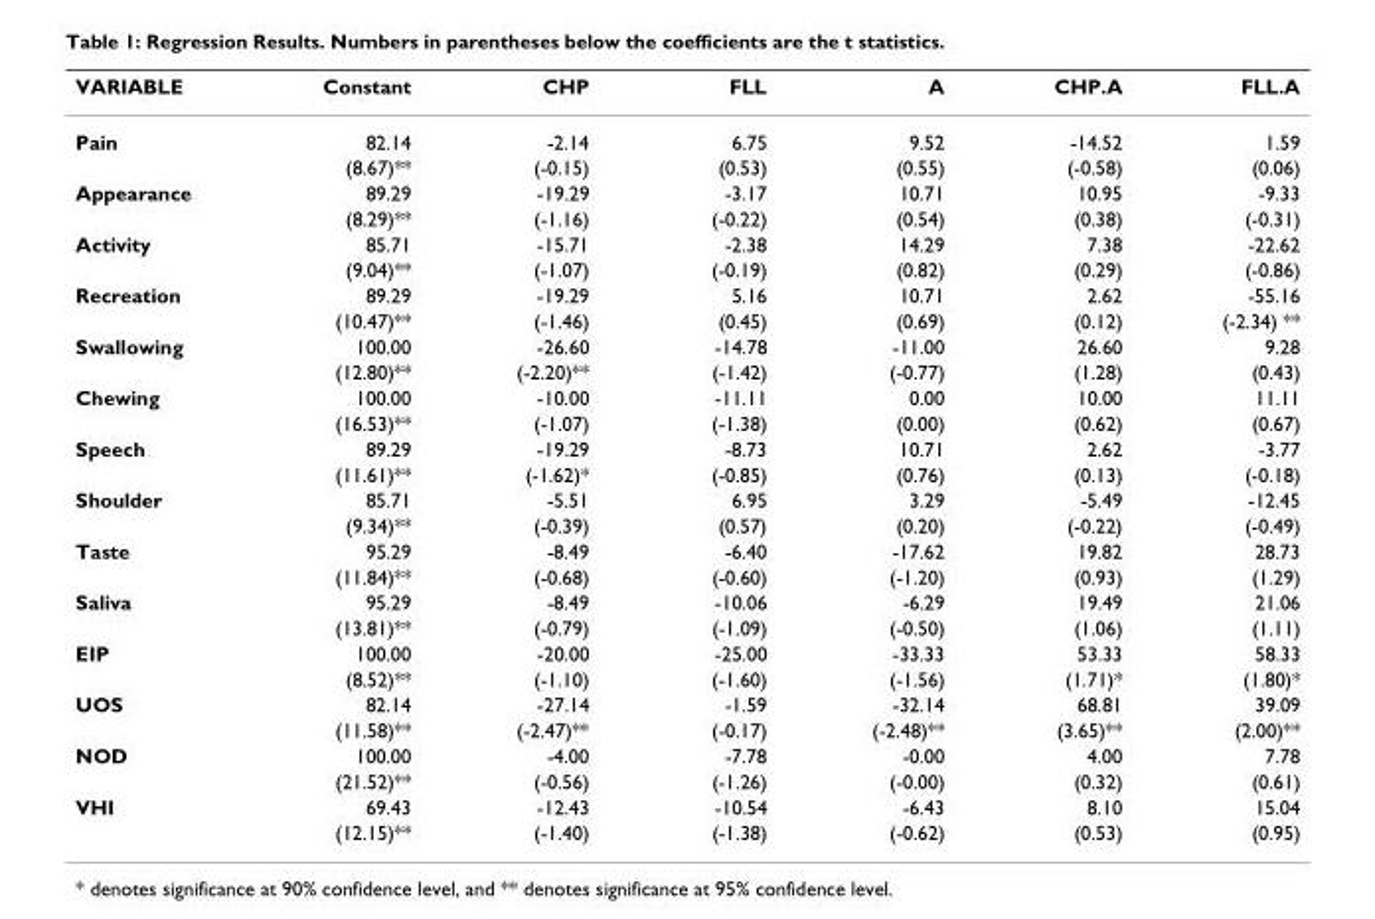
<table><thead><tr><td>VARIABLE</td><td>Constant</td><td>CHP</td><td>FLL</td><td>A</td><td>CHP.A</td><td>FLL.A</td></tr></thead><tbody><tr><td rowspan="2">Pain</td><td>82.14</td><td>-2.14</td><td>6.75</td><td>9.52</td><td>-14.52</td><td>1.59</td></tr><tr><td>(8.67)**</td><td>(-0.15)</td><td>(0.53)</td><td>(0.55)</td><td>(-0.58)</td><td>(0.06)</td></tr><tr><td rowspan="2">Appearance</td><td>89.29</td><td>-19.29</td><td>-3.17</td><td>10.71</td><td>10.95</td><td>-9.33</td></tr><tr><td>(8.29)**</td><td>(-1.16)</td><td>(-0.22)</td><td>(0.54)</td><td>(0.38)</td><td>(-0.31)</td></tr><tr><td rowspan="2">Activity</td><td>85.71</td><td>-15.71</td><td>-2.38</td><td>14.29</td><td>7.38</td><td>-22.62</td></tr><tr><td>(9.04)**</td><td>(-1.07)</td><td>(-0.19)</td><td>(0.82)</td><td>(0.29)</td><td>(-0.86)</td></tr><tr><td rowspan="2">Recreation</td><td>89.29</td><td>-19.29</td><td>5.16</td><td>10.71</td><td>2.62</td><td>-55.16</td></tr><tr><td>(10.47)**</td><td>(-1.46)</td><td>(0.45)</td><td>(0.69)</td><td>(0.12)</td><td>(-2.34) **</td></tr><tr><td rowspan="2">Swallowing</td><td>100.00</td><td>-26.60</td><td>-14.78</td><td>-11.00</td><td>26.60</td><td>9.28</td></tr><tr><td>(12.80)**</td><td>(-2.20)**</td><td>(-1.42)</td><td>(-0.77)</td><td>(1.28)</td><td>(0.43)</td></tr><tr><td rowspan="2">Chewing</td><td>100.00</td><td>-10.00</td><td>-11.11</td><td>0.00</td><td>10.00</td><td>11.11</td></tr><tr><td>(16.53)**</td><td>(-1.07)</td><td>(-1.38)</td><td>(0.00)</td><td>(0.62)</td><td>(0.67)</td></tr><tr><td rowspan="2">Speech</td><td>89.29</td><td>-19.29</td><td>-8.73</td><td>10.71</td><td>2.62</td><td>-3.77</td></tr><tr><td>(11.61)**</td><td>(-1.62)*</td><td>(-0.85)</td><td>(0.76)</td><td>(0.13)</td><td>(-0.18)</td></tr><tr><td rowspan="2">Shoulder</td><td>85.71</td><td>-5.51</td><td>6.95</td><td>3.29</td><td>-5.49</td><td>-12.45</td></tr><tr><td>(9.34)**</td><td>(-0.39)</td><td>(0.57)</td><td>(0.20)</td><td>(-0.22)</td><td>(-0.49)</td></tr><tr><td rowspan="2">Taste</td><td>95.29</td><td>-8.49</td><td>-6.40</td><td>-17.62</td><td>19.82</td><td>28.73</td></tr><tr><td>(11.84)**</td><td>(-0.68)</td><td>(-0.60)</td><td>(-1.20)</td><td>(0.93)</td><td>(1.29)</td></tr><tr><td rowspan="2">Saliva</td><td>95.29</td><td>-8.49</td><td>-10.06</td><td>-6.29</td><td>19.49</td><td>21.06</td></tr><tr><td>(13.81)**</td><td>(-0.79)</td><td>(-1.09)</td><td>(-0.50)</td><td>(1.06)</td><td>(1.11)</td></tr><tr><td rowspan="2">EIP</td><td>100.00</td><td>-20.00</td><td>-25.00</td><td>-33.33</td><td>53.33</td><td>58.33</td></tr><tr><td>(8.52)**</td><td>(-1.10)</td><td>(-1.60)</td><td>(-1.56)</td><td>(1.71)*</td><td>(1.80)*</td></tr><tr><td rowspan="2">UOS</td><td>82.14</td><td>-27.14</td><td>-1.59</td><td>-32.14</td><td>68.81</td><td>39.09</td></tr><tr><td>(11.58)**</td><td>(-2.47)**</td><td>(-0.17)</td><td>(-2.48)**</td><td>(3.65)**</td><td>(2.00)**</td></tr><tr><td rowspan="2">NOD</td><td>100.00</td><td>-4.00</td><td>-7.78</td><td>-0.00</td><td>4.00</td><td>7.78</td></tr><tr><td>(21.52)**</td><td>(-0.56)</td><td>(-1.26)</td><td>(-0.00)</td><td>(0.32)</td><td>(0.61)</td></tr><tr><td rowspan="2">VHI</td><td>69.43</td><td>-12.43</td><td>-10.54</td><td>-6.43</td><td>8.10</td><td>15.04</td></tr><tr><td>(12.15)**</td><td>(-1.40)</td><td>(-1.38)</td><td>(-0.62)</td><td>(0.53)</td><td>(0.95)</td></tr></tbody></table>